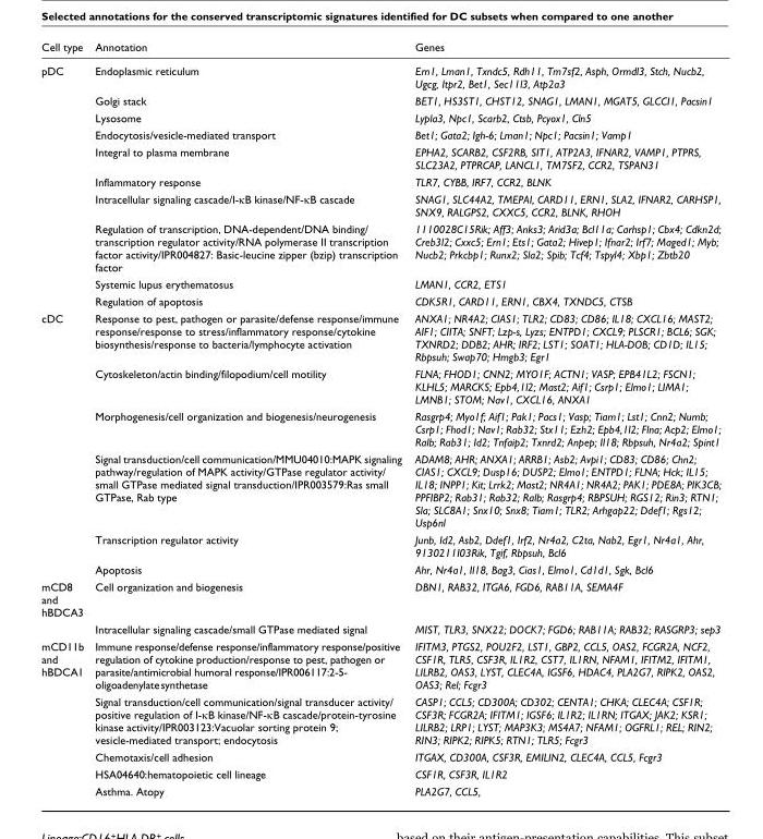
<table><thead><tr><td>Cell type</td><td>Annotation</td><td>Genes</td></tr></thead><tbody><tr><td rowspan="10">pDC</td><td>Endoplasmic reticulum</td><td>Ern1, Lman1, Txndc5, Rdh11, Tm7sf2, Asph, Ormdl3, Stch, Nucb2, Ugcg, Itpr2, Bet1, Sec11l3, Atp2a3</td></tr><tr><td>Golgi stack</td><td>BET1, HS3ST1, CHST12, SNAG1, LMAN1, MGAT5, GLCCI1, Pacsin1</td></tr><tr><td>Lysosome</td><td>Lypla3, Npc1, Scarb2, Ctsb, Pcyox1, Cln5</td></tr><tr><td>Endocytosis/vesicle-mediated transport</td><td>Bet1; Gata2; Igh-6; Lman1; Npc1; Pacsin1; Vamp1</td></tr><tr><td>Integral to plasma membrane</td><td>EPHA2, SCARB2, CSF2RB, SIT1, ATP2A3, IFNAR2, VAMP1, PTPRS, SLC23A2, PTPRCAP, LANCL1, TM7SF2, CCR2, TSPAN31</td></tr><tr><td>Inflammatory response</td><td>TLR7, CYBB, IRF7, CCR2, BLNK</td></tr><tr><td>Intracellular signaling cascade/I-κB kinase/NF-κB cascade</td><td>SNAG1, SLC44A2, TMEPAI, CARD11, ERN1, SLA2, IFNAR2, CARHSP1, SNX9, RALGPS2, CXXC5, CCR2, BLNK, RHOH</td></tr><tr><td>Regulation of transcription, DNA-dependent/DNA binding/ transcription regulator activity/RNA polymerase II transcription factor activity/IPR004827: Basic-leucine zipper (bzip) transcription factor</td><td>1110028C15Rik; Aff3; Anks3; Arid3a; Bcl11a; Carhsp1; Cbx4; Cdkn2d; Creb3l2; Cxxc5; Ern1; Ets1; Gata2; Hivep1; Ifnar2; Irf7; Maged1; Myb; Nucb2; Prkcbp1; Runx2; Sla2; Spib; Tcf4; Tspyl4; Xbp1; Zbtb20</td></tr><tr><td>Systemic lupus erythematosus</td><td>LMAN1, CCR2, ETS1</td></tr><tr><td>Regulation of apoptosis</td><td>CDK5R1, CARD11, ERN1, CBX4, TXNDC5, CTSB</td></tr><tr><td rowspan="6">cDC</td><td>Response to pest, pathogen or parasite/defense response/immune response/response to stress/inflammatory response/cytokine biosynthesis/response to bacteria/lymphocyte activation</td><td>ANXA1; NR4A2; CIAS1; TLR2; CD83; CD86; IL18; CXCL16; MAST2; AIF1; CIITA; SNFT; Lzp-s, Lyzs; ENTPD1; CXCL9; PLSCR1; BCL6; SGK; TXNRD2; DDB2; AHR; IRF2; LST1; SOAT1; HLA-DOB; CD1D; IL15; Rbpsuh; Swap70; Hmgb3; Egr1</td></tr><tr><td>Cytoskeleton/actin binding/filopodium/cell motility</td><td>FLNA; FHOD1; CNN2; MYO1F; ACTN1; VASP; EPB41L2; FSCN1; KLHL5; MARCKS; Epb4,1l2; Mast2; Aif1; Csrp1; Elmo1; LIMA1; LMNB1; STOM; Nav1, CXCL16, ANXA1</td></tr><tr><td>Morphogenesis/cell organization and biogenesis/neurogenesis</td><td>Rasgrp4; Myo1f; Aif1; Pak1; Pacs1; Vasp; Tiam1; Lst1; Cnn2; Numb; Csrp1; Fhod1; Nav1; Rab32; Stx11; Ezh2; Epb4,1l2; Flna; Acp2; Elmo1; Ralb; Rab31; Id2; Tnfaip2; Txnrd2; Anpep; Il18; Rbpsuh, Nr4a2; Spint1</td></tr><tr><td>Signal transduction/cell communication/MMU04010:MAPK signaling pathway/regulation of MAPK activity/GTPase regulator activity/ small GTPase mediated signal transduction/IPR003579:Ras small GTPase, Rab type</td><td>ADAM8; AHR; ANXA1; ARRB1; Asb2; Avpi1; CD83; CD86; Chn2; CIAS1; CXCL9; Dusp16; DUSP2; Elmo1; ENTPD1; FLNA; Hck; IL15; IL18; INPP1; Kit; Lrrk2; Mast2; NR4A1; NR4A2; PAK1; PDE8A; PIK3CB; PPFIBP2; Rab31; Rab32; Ralb; Rasgrp4; RBPSUH; RGS12; Rin3; RTN1; Sla; SLC8A1; Snx10; Snx8; Tiam1; TLR2; Arhgap22; Ddef1; Rgs12; Usp6nl</td></tr><tr><td>Transcription regulator activity</td><td>Junb, Id2, Asb2, Ddef1, Irf2, Nr4a2, C2ta, Nab2, Egr1, Nr4a1, Ahr, 9130211I03Rik, Tgif, Rbpsuh, Bcl6</td></tr><tr><td>Apoptosis</td><td>Ahr, Nr4a1, Il18, Bag3, Cias1, Elmo1, Cd1d1, Sgk, Bcl6</td></tr><tr><td rowspan="2">mCD8 and hBDCA3</td><td>Cell organization and biogenesis</td><td>DBN1, RAB32, ITGA6, FGD6, RAB11A, SEMA4F</td></tr><tr><td>Intracellular signaling cascade/small GTPase mediated signal</td><td>MIST, TLR3, SNX22; DOCK7; FGD6; RAB11A; RAB32; RASGRP3; sep3</td></tr><tr><td rowspan="5">mCD11b and hBDCA1</td><td>Immune response/defense response/inflammatory response/positive regulation of cytokine production/response to pest, pathogen or parasite/antimicrobial humoral response/IPR006117:2-5- oligoadenylate synthetase</td><td>IFITM3, PTGS2, POU2F2, LST1, GBP2, CCL5, OAS2, FCGR2A, NCF2, CSF1R, TLR5, CSF3R, IL1R2, CST7, IL1RN, NFAM1, IFITM2, IFITM1, LILRB2, OAS3, LYST, CLEC4A, IGSF6, HDAC4, PLA2G7, RIPK2, OAS2, OAS3; Rel; Fcgr3</td></tr><tr><td>Signal transduction/cell communication/signal transducer activity/ positive regulation of I-κB kinase/NF-κB cascade/protein-tyrosine kinase activity/IPR003123:Vacuolar sorting protein 9; vesicle-mediated transport; endocytosis</td><td>CASP1; CCL5; CD300A; CD302; CENTA1; CHKA; CLEC4A; CSF1R; CSF3R; FCGR2A; IFITM1; IGSF6; IL1R2; IL1RN; ITGAX; JAK2; KSR1; LILRB2; LRP1; LYST; MAP3K3; MS4A7; NFAM1; OGFRL1; REL; RIN2; RIN3; RIPK2; RIPK5; RTN1; TLR5; Fcgr3</td></tr><tr><td>Chemotaxis/cell adhesion</td><td>ITGAX, CD300A, CSF3R, EMILIN2, CLEC4A, CCL5, Fcgr3</td></tr><tr><td>HSA04640:hematopoietic cell lineage</td><td>CSF1R, CSF3R, IL1R2</td></tr><tr><td>Asthma. Atopy</td><td>PLA2G7, CCL5,</td></tr></tbody></table>